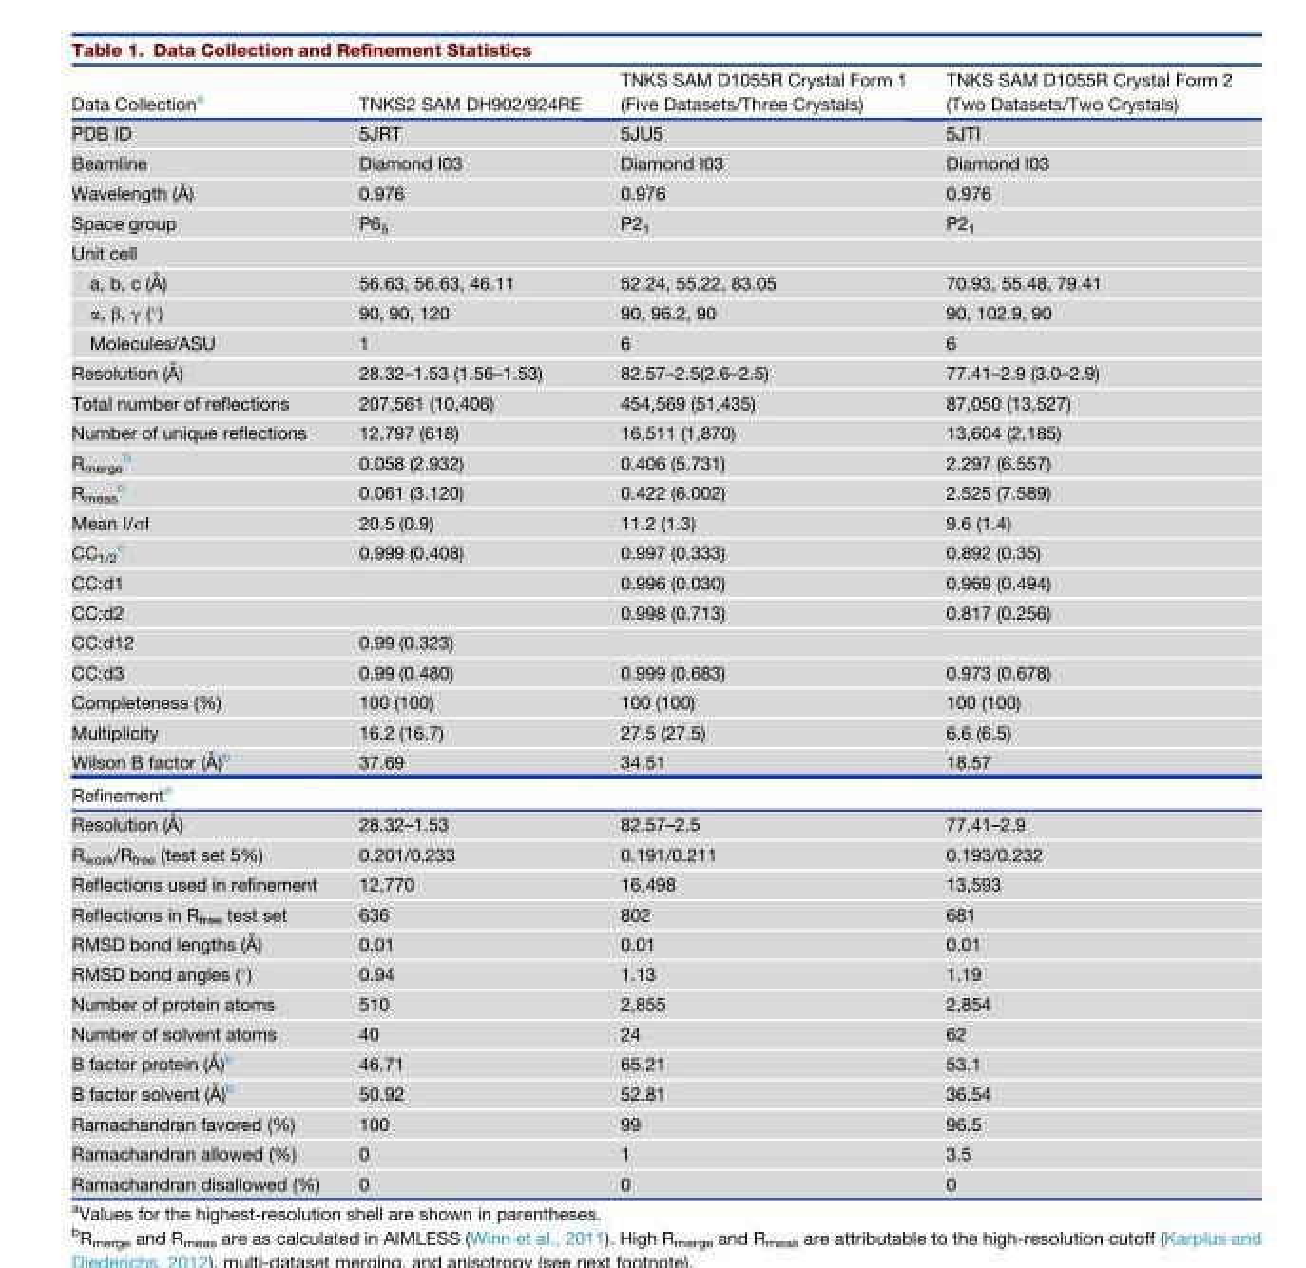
<table><thead><tr><td>Data Collection<sup>a</sup></td><td>TNKS2 SAM DH902/924RE</td><td>TNKS SAM D1055R Crystal Form 1 (Five Datasets/Three Crystals)</td><td>TNKS SAM D1055R Crystal Form 2 (Two Datasets/Two Crystals)</td></tr></thead><tbody><tr><td>PDB ID</td><td>5JRT</td><td>5JU5</td><td>5JTI</td></tr><tr><td>Beamline</td><td>Diamond I03</td><td>Diamond I03</td><td>Diamond I03</td></tr><tr><td>Wavelength (A˚ )</td><td>0.976</td><td>0.976</td><td>0.976</td></tr><tr><td>Space group</td><td>P6<sub>5</sub></td><td>P2<sub>1</sub></td><td>P2<sub>1</sub></td></tr><tr><td colspan="4">Unit cell</td></tr><tr><td>a, b, c (A˚ )</td><td>56.63, 56.63, 46.11</td><td>52.24, 55.22, 83.05</td><td>70.93, 55.48, 79.41</td></tr><tr><td>α, β, γ (°)</td><td>90, 90, 120</td><td>90, 96.2, 90</td><td>90, 102.9, 90</td></tr><tr><td>Molecules/ASU</td><td>1</td><td>6</td><td>6</td></tr><tr><td>Resolution (A˚ )</td><td>28.32–1.53 (1.56–1.53)</td><td>82.57–2.5(2.6–2.5)</td><td>77.41–2.9 (3.0–2.9)</td></tr><tr><td>Total number of reflections</td><td>207,561 (10,406)</td><td>454,569 (51,435)</td><td>87,050 (13,527)</td></tr><tr><td>Number of unique reflections</td><td>12,797 (618)</td><td>16,511 (1,870)</td><td>13,604 (2,185)</td></tr><tr><td>R<sub>merge</sub> <sup>b</sup></td><td>0.058 (2.932)</td><td>0.406 (5.731)</td><td>2.297 (6.557)</td></tr><tr><td>R<sub>meas</sub> <sup>b</sup></td><td>0.061 (3.120)</td><td>0.422 (6.002)</td><td>2.525 (7.589)</td></tr><tr><td>Mean I/σI</td><td>20.5 (0.9)</td><td>11.2 (1.3)</td><td>9.6 (1.4)</td></tr><tr><td>CC<sub>1/2</sub> <sup>c</sup></td><td>0.999 (0.408)</td><td>0.997 (0.333)</td><td>0.892 (0.35)</td></tr><tr><td>CC:d1</td><td></td><td>0.996 (0.030)</td><td>0.969 (0.494)</td></tr><tr><td>CC:d2</td><td></td><td>0.998 (0.713)</td><td>0.817 (0.256)</td></tr><tr><td>CC:d12</td><td>0.99 (0.323)</td><td></td><td></td></tr><tr><td>CC:d3</td><td>0.99 (0.480)</td><td>0.999 (0.683)</td><td>0.973 (0.678)</td></tr><tr><td>Completeness (%)</td><td>100 (100)</td><td>100 (100)</td><td>100 (100)</td></tr><tr><td>Multiplicity</td><td>16.2 (16.7)</td><td>27.5 (27.5)</td><td>6.6 (6.5)</td></tr><tr><td>Wilson B factor (A˚ )b</td><td>37.69</td><td>34.51</td><td>18.57</td></tr><tr><td colspan="4">Refinement<sup>a</sup></td></tr><tr><td>Resolution (A˚ )</td><td>28.32–1.53</td><td>82.57–2.5</td><td>77.41–2.9</td></tr><tr><td>R<sub>work</sub>/R<sub>free</sub> (test set 5%)</td><td>0.201/0.233</td><td>0.191/0.211</td><td>0.193/0.232</td></tr><tr><td>Reflections used in refinement</td><td>12,770</td><td>16,498</td><td>13,593</td></tr><tr><td>Reflections in R<sub>free</sub> test set</td><td>636</td><td>802</td><td>681</td></tr><tr><td>RMSD bond lengths (A˚ )</td><td>0.01</td><td>0.01</td><td>0.01</td></tr><tr><td>RMSD bond angles (°)</td><td>0.94</td><td>1.13</td><td>1.19</td></tr><tr><td>Number of protein atoms</td><td>510</td><td>2,855</td><td>2,854</td></tr><tr><td>Number of solvent atoms</td><td>40</td><td>24</td><td>62</td></tr><tr><td>B factor protein (A˚ )b</td><td>46.71</td><td>65.21</td><td>53.1</td></tr><tr><td>B factor solvent (A˚ )b</td><td>50.92</td><td>52.81</td><td>36.54</td></tr><tr><td>Ramachandran favored (%)</td><td>100</td><td>99</td><td>96.5</td></tr><tr><td>Ramachandran allowed (%)</td><td>0</td><td>1</td><td>3.5</td></tr><tr><td>Ramachandran disallowed (%)</td><td>0</td><td>0</td><td>0</td></tr></tbody></table>